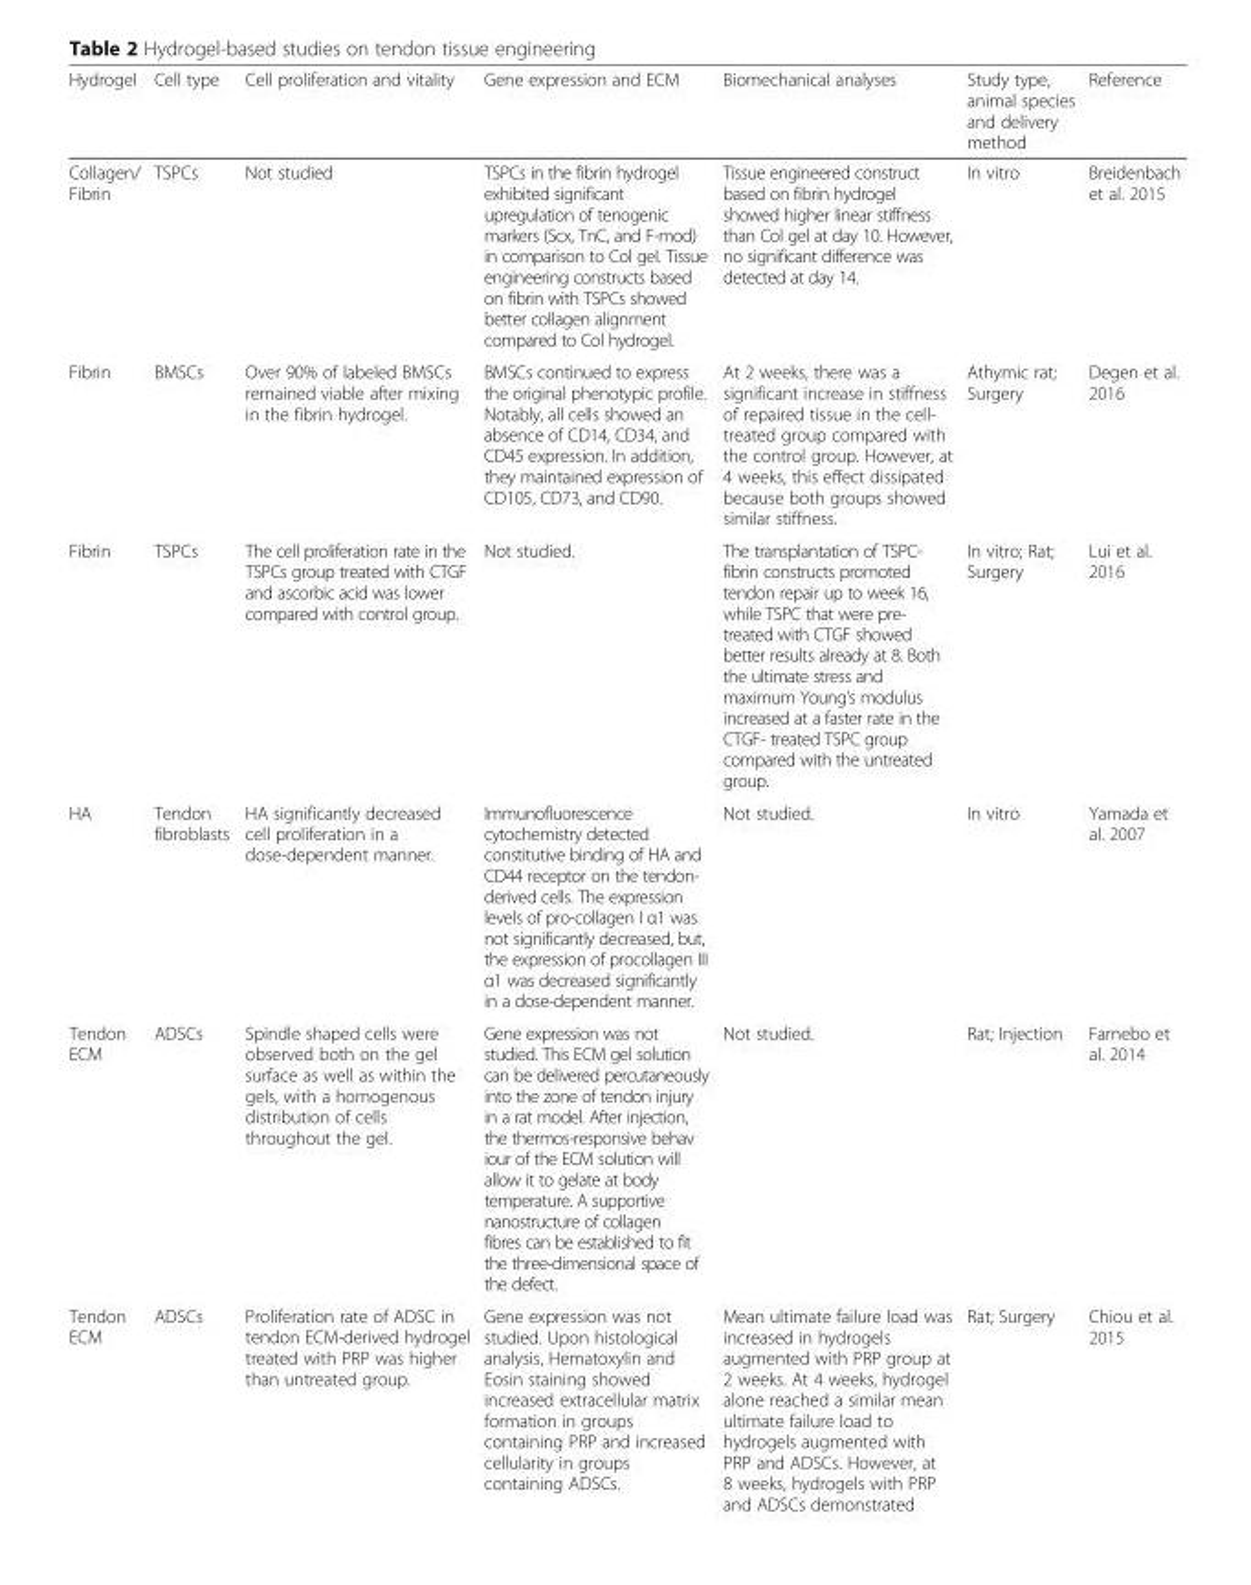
<table><thead><tr><td>Hydrogel</td><td>Cell type</td><td>Cell proliferation and vitality</td><td>Gene expression and ECM</td><td>Biomechanical analyses</td><td>Study type, animal species and delivery method</td><td>Reference</td></tr></thead><tbody><tr><td>Collagen/ Fibrin</td><td>TSPCs</td><td>Not studied</td><td>TSPCs in the fibrin hydrogel exhibited significant upregulation of tenogenic markers (Scx, TnC, and F-mod) in comparison to Col gel. Tissue engineering constructs based on fibrin with TSPCs showed better collagen alignment compared to Col hydrogel.</td><td>Tissue engineered construct based on fibrin hydrogel showed higher linear stiffness than Col gel at day 10. However, no significant difference was detected at day 14.</td><td>In vitro</td><td>Breidenbach et al. 2015</td></tr><tr><td>Fibrin</td><td>BMSCs</td><td>Over 90% of labeled BMSCs remained viable after mixing in the fibrin hydrogel.</td><td>BMSCs continued to express the original phenotypic profile. Notably, all cells showed an absence of CD14, CD34, and CD45 expression. In addition, they maintained expression of CD105, CD73, and CD90.</td><td>At 2 weeks, there was a significant increase in stiffness of repaired tissue in the cell- treated group compared with the control group. However, at 4 weeks, this effect dissipated because both groups showed similar stiffness.</td><td>Athymic rat; Surgery</td><td>Degen et al. 2016</td></tr><tr><td>Fibrin</td><td>TSPCs</td><td>The cell proliferation rate in the TSPCs group treated with CTGF and ascorbic acid was lower compared with control group.</td><td>Not studied.</td><td>The transplantation of TSPC- fibrin constructs promoted tendon repair up to week 16, while TSPC that were pre- treated with CTGF showed better results already at 8. Both the ultimate stress and maximum Young’s modulus increased at a faster rate in the CTGF- treated TSPC group compared with the untreated group.</td><td>In vitro; Rat; Surgery</td><td>Lui et al. 2016</td></tr><tr><td>HA</td><td>Tendon fibroblasts</td><td>HA significantly decreased cell proliferation in a dose-dependent manner.</td><td>Immunofluorescence cytochemistry detected constitutive binding of HA and CD44 receptor on the tendon- derived cells. The expression levels of pro-collagen I α1 was not significantly decreased, but, the expression of procollagen III α1 was decreased significantly in a dose-dependent manner.</td><td>Not studied.</td><td>In vitro</td><td>Yamada et al. 2007</td></tr><tr><td>Tendon ECM</td><td>ADSCs</td><td>Spindle shaped cells were observed both on the gel surface as well as within the gels, with a homogenous distribution of cells throughout the gel.</td><td>Gene expression was not studied. This ECM gel solution can be delivered percutaneously into the zone of tendon injury in a rat model. After injection, the thermos-responsive behav iour of the ECM solution will allow it to gelate at body temperature. A supportive nanostructure of collagen fibres can be established to fit the three-dimensional space of the defect.</td><td>Not studied.</td><td>Rat; Injection</td><td>Farnebo et al. 2014</td></tr><tr><td>Tendon ECM</td><td>ADSCs</td><td>Proliferation rate of ADSC in tendon ECM-derived hydrogel treated with PRP was higher than untreated group.</td><td>Gene expression was not studied. Upon histological analysis, Hematoxylin and Eosin staining showed increased extracellular matrix formation in groups containing PRP and increased cellularity in groups containing ADSCs.</td><td>Mean ultimate failure load was increased in hydrogels augmented with PRP group at 2 weeks. At 4 weeks, hydrogel alone reached a similar mean ultimate failure load to hydrogels augmented with PRP and ADSCs. However, at 8 weeks, hydrogels with PRP and ADSCs demonstrated</td><td>Rat; Surgery</td><td>Chiou et al. 2015</td></tr></tbody></table>